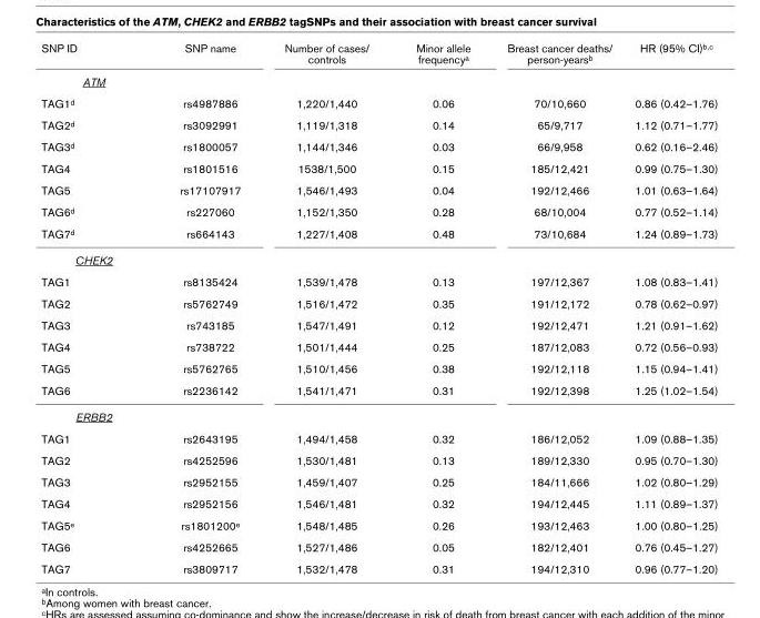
<table><tbody><tr><td>SNP ID</td><td>SNP name</td><td>Number of cases/ controls</td><td>Minor allele frequencya</td><td>Breast cancer deaths/ person-yearsb</td><td>HR (95% CI)b,c</td></tr><tr><td colspan="6">ATM</td></tr><tr><td>TAG1d</td><td>rs4987886</td><td>1,220/1,440</td><td>0.06</td><td>70/10,660</td><td>0.86 (0.42–1.76)</td></tr><tr><td>TAG2d</td><td>rs3092991</td><td>1,119/1,318</td><td>0.14</td><td>65/9,717</td><td>1.12 (0.71–1.77)</td></tr><tr><td>TAG3d</td><td>rs1800057</td><td>1,144/1,346</td><td>0.03</td><td>66/9,958</td><td>0.62 (0.16–2.46)</td></tr><tr><td>TAG4</td><td>rs1801516</td><td>1538/1,500</td><td>0.15</td><td>185/12,421</td><td>0.99 (0.75–1.30)</td></tr><tr><td>TAG5</td><td>rs17107917</td><td>1,546/1,493</td><td>0.04</td><td>192/12,466</td><td>1.01 (0.63–1.64)</td></tr><tr><td>TAG6d</td><td>rs227060</td><td>1,152/1,350</td><td>0.28</td><td>68/10,004</td><td>0.77 (0.52–1.14)</td></tr><tr><td>TAG7d</td><td>rs664143</td><td>1,227/1,408</td><td>0.48</td><td>73/10,684</td><td>1.24 (0.89–1.73)</td></tr><tr><td colspan="6">CHEK2</td></tr><tr><td>TAG1</td><td>rs8135424</td><td>1,539/1,478</td><td>0.13</td><td>197/12,367</td><td>1.08 (0.83–1.41)</td></tr><tr><td>TAG2</td><td>rs5762749</td><td>1,516/1,472</td><td>0.35</td><td>191/12,172</td><td>0.78 (0.62–0.97)</td></tr><tr><td>TAG3</td><td>rs743185</td><td>1,547/1,491</td><td>0.12</td><td>192/12,471</td><td>1.21 (0.91–1.62)</td></tr><tr><td>TAG4</td><td>rs738722</td><td>1,501/1,444</td><td>0.25</td><td>187/12,083</td><td>0.72 (0.56–0.93)</td></tr><tr><td>TAG5</td><td>rs5762765</td><td>1,510/1,456</td><td>0.38</td><td>192/12,118</td><td>1.15 (0.94–1.41)</td></tr><tr><td>TAG6</td><td>rs2236142</td><td>1,541/1,471</td><td>0.31</td><td>192/12,398</td><td>1.25 (1.02–1.54)</td></tr><tr><td colspan="6">ERBB2</td></tr><tr><td>TAG1</td><td>rs2643195</td><td>1,494/1,458</td><td>0.32</td><td>186/12,052</td><td>1.09 (0.88–1.35)</td></tr><tr><td>TAG2</td><td>rs4252596</td><td>1,530/1,481</td><td>0.13</td><td>189/12,330</td><td>0.95 (0.70–1.30)</td></tr><tr><td>TAG3</td><td>rs2952155</td><td>1,459/1,407</td><td>0.25</td><td>184/11,666</td><td>1.02 (0.80–1.29)</td></tr><tr><td>TAG4</td><td>rs2952156</td><td>1,546/1,481</td><td>0.32</td><td>194/12,445</td><td>1.11 (0.89–1.37)</td></tr><tr><td>TAG5e</td><td>rs1801200e</td><td>1,548/1,485</td><td>0.26</td><td>193/12,463</td><td>1.00 (0.80–1.25)</td></tr><tr><td>TAG6</td><td>rs4252665</td><td>1,527/1,486</td><td>0.05</td><td>182/12,401</td><td>0.76 (0.45–1.27)</td></tr><tr><td>TAG7</td><td>rs3809717</td><td>1,532/1,478</td><td>0.31</td><td>194/12,310</td><td>0.96 (0.77–1.20)</td></tr></tbody></table>